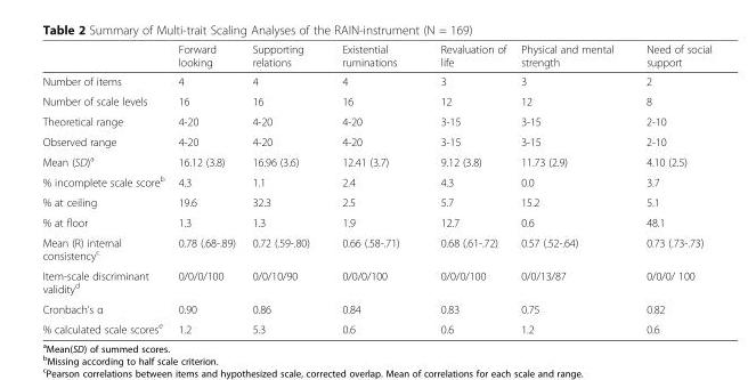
<table><thead><tr><td></td><td>Forward looking</td><td>Supporting relations</td><td>Existential ruminations</td><td>Revaluation of life</td><td>Physical and mental strength</td><td>Need of social support</td></tr></thead><tbody><tr><td>Number of items</td><td>4</td><td>4</td><td>4</td><td>3</td><td>3</td><td>2</td></tr><tr><td>Number of scale levels</td><td>16</td><td>16</td><td>16</td><td>12</td><td>12</td><td>8</td></tr><tr><td>Theoretical range</td><td>4-20</td><td>4-20</td><td>4-20</td><td>3-15</td><td>3-15</td><td>2-10</td></tr><tr><td>Observed range</td><td>4-20</td><td>4-20</td><td>4-20</td><td>3-15</td><td>3-15</td><td>2-10</td></tr><tr><td>Mean (SD)<sup>a</sup></td><td>16.12 (3.8)</td><td>16.96 (3.6)</td><td>12.41 (3.7)</td><td>9.12 (3.8)</td><td>11.73 (2.9)</td><td>4.10 (2.5)</td></tr><tr><td>% incomplete scale score<sup>b</sup></td><td>4.3</td><td>1.1</td><td>2.4</td><td>4.3</td><td>0.0</td><td>3.7</td></tr><tr><td>% at ceiling</td><td>19.6</td><td>32.3</td><td>2.5</td><td>5.7</td><td>15.2</td><td>5.1</td></tr><tr><td>% at floor</td><td>1.3</td><td>1.3</td><td>1.9</td><td>12.7</td><td>0.6</td><td>48.1</td></tr><tr><td>Mean (R) internal consistency<sup>c</sup></td><td>0.78 (.68-.89)</td><td>0.72 (.59-.80)</td><td>0.66 (.58-.71)</td><td>0.68 (.61-.72)</td><td>0.57 (.52-.64)</td><td>0.73 (.73-.73)</td></tr><tr><td>Item-scale discriminant validity<sup>d</sup></td><td>0/0/0/100</td><td>0/0/10/90</td><td>0/0/0/100</td><td>0/0/0/100</td><td>0/0/13/87</td><td>0/0/0/ 100</td></tr><tr><td>Cronbach’s α</td><td>0.90</td><td>0.86</td><td>0.84</td><td>0.83</td><td>0.75</td><td>0.82</td></tr><tr><td>% calculated scale scores<sup>e</sup></td><td>1.2</td><td>5.3</td><td>0.6</td><td>0.6</td><td>1.2</td><td>0.6</td></tr></tbody></table>